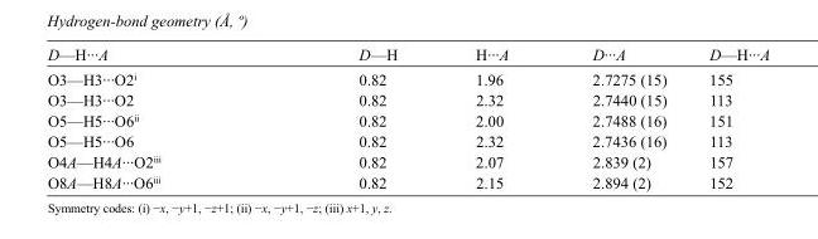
<table><tbody><tr><td>D—H···A</td><td>D—H</td><td>H···A</td><td>D···A</td><td>D—H···A</td></tr><tr><td>O3—H3···O2<sup>i</sup></td><td>0.82</td><td>1.96</td><td>2.7275 (15)</td><td>155</td></tr><tr><td>O3—H3···O2</td><td>0.82</td><td>2.32</td><td>2.7440 (15)</td><td>113</td></tr><tr><td>O5—H5···O6<sup>ii</sup></td><td>0.82</td><td>2.00</td><td>2.7488 (16)</td><td>151</td></tr><tr><td>O5—H5···O6</td><td>0.82</td><td>2.32</td><td>2.7436 (16)</td><td>113</td></tr><tr><td>O4A—H4A···O2<sup>iii</sup></td><td>0.82</td><td>2.07</td><td>2.839 (2)</td><td>157</td></tr><tr><td>O8A—H8A···O6<sup>iii</sup></td><td>0.82</td><td>2.15</td><td>2.894 (2)</td><td>152</td></tr></tbody></table>